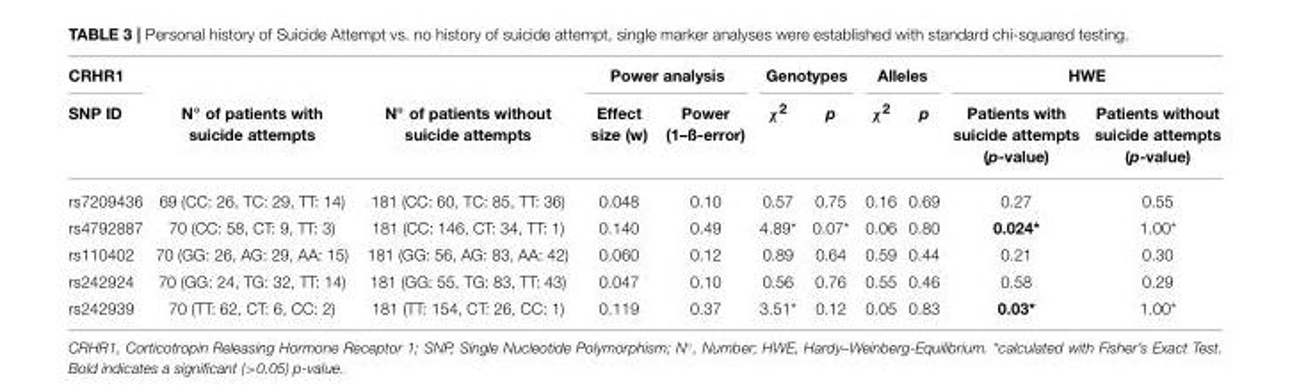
<table><thead><tr><td rowspan="2">CRHR1 SNP ID</td><td rowspan="2">N◦ of patients with suicide attempts</td><td rowspan="2">N◦ of patients without suicide attempts</td><td colspan="2">Power analysis</td><td colspan="2">Genotypes</td><td colspan="2">Alleles</td><td colspan="2">HWE</td></tr><tr><td>Effect size (w)</td><td>Power (1–ß-error)</td><td>χ<sup>2</sup></td><td>p</td><td>χ<sup>2</sup></td><td>p</td><td>Patients with suicide attempts (p-value)</td><td>Patients without suicide attempts (p-value)</td></tr></thead><tbody><tr><td>rs7209436</td><td>69 (CC: 26, TC: 29, TT: 14)</td><td>181 (CC: 60, TC: 85, TT: 36)</td><td>0.048</td><td>0.10</td><td>0.57</td><td>0.75</td><td>0.16</td><td>0.69</td><td>0.27</td><td>0.55</td></tr><tr><td>rs4792887</td><td>70 (CC: 58, CT: 9, TT: 3)</td><td>181 (CC: 146, CT: 34, TT: 1)</td><td>0.140</td><td>0.49</td><td>4.89*</td><td>0.07*</td><td>0.06</td><td>0.80</td><td>0.024*</td><td>1.00*</td></tr><tr><td>rs110402</td><td>70 (GG: 26, AG: 29, AA: 15)</td><td>181 (GG: 56, AG: 83, AA: 42)</td><td>0.060</td><td>0.12</td><td>0.89</td><td>0.64</td><td>0.59</td><td>0.44</td><td>0.21</td><td>0.30</td></tr><tr><td>rs242924</td><td>70 (GG: 24, TG: 32, TT: 14)</td><td>181 (GG: 55, TG: 83, TT: 43)</td><td>0.047</td><td>0.10</td><td>0.56</td><td>0.76</td><td>0.55</td><td>0.46</td><td>0.58</td><td>0.29</td></tr><tr><td>rs242939</td><td>70 (TT: 62, CT: 6, CC: 2)</td><td>181 (TT: 154, CT: 26, CC: 1)</td><td>0.119</td><td>0.37</td><td>3.51*</td><td>0.12</td><td>0.05</td><td>0.83</td><td>0.03*</td><td>1.00*</td></tr></tbody></table>